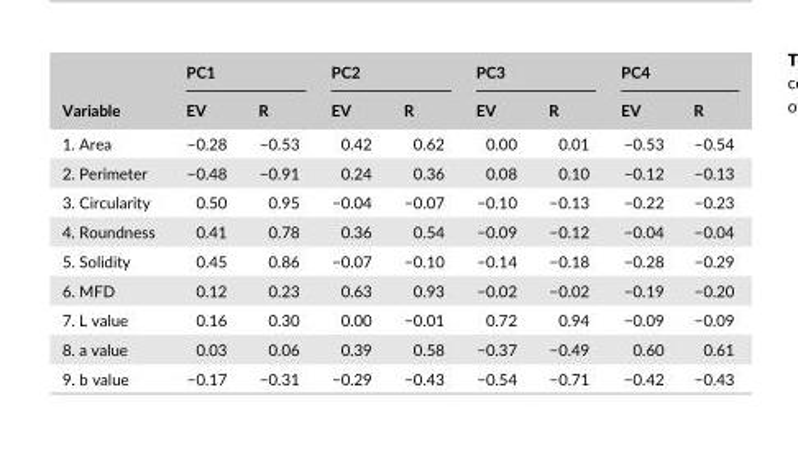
<table><thead><tr><td rowspan="2">Variable</td><td colspan="2">PC1</td><td colspan="2">PC2</td><td colspan="2">PC3</td><td colspan="2">PC4</td></tr><tr><td>EV</td><td>R</td><td>EV</td><td>R</td><td>EV</td><td>R</td><td>EV</td><td>R</td></tr></thead><tbody><tr><td>1. Area</td><td>−0.28</td><td>−0.53</td><td>0.42</td><td>0.62</td><td>0.00</td><td>0.01</td><td>−0.53</td><td>−0.54</td></tr><tr><td>2. Perimeter</td><td>−0.48</td><td>−0.91</td><td>0.24</td><td>0.36</td><td>0.08</td><td>0.10</td><td>−0.12</td><td>−0.13</td></tr><tr><td>3. Circularity</td><td>0.50</td><td>0.95</td><td>−0.04</td><td>−0.07</td><td>−0.10</td><td>−0.13</td><td>−0.22</td><td>−0.23</td></tr><tr><td>4. Roundness</td><td>0.41</td><td>0.78</td><td>0.36</td><td>0.54</td><td>−0.09</td><td>−0.12</td><td>−0.04</td><td>−0.04</td></tr><tr><td>5. Solidity</td><td>0.45</td><td>0.86</td><td>−0.07</td><td>−0.10</td><td>−0.14</td><td>−0.18</td><td>−0.28</td><td>−0.29</td></tr><tr><td>6. MFD</td><td>0.12</td><td>0.23</td><td>0.63</td><td>0.93</td><td>−0.02</td><td>−0.02</td><td>−0.19</td><td>−0.20</td></tr><tr><td>7. L value</td><td>0.16</td><td>0.30</td><td>0.00</td><td>−0.01</td><td>0.72</td><td>0.94</td><td>−0.09</td><td>−0.09</td></tr><tr><td>8. a value</td><td>0.03</td><td>0.06</td><td>0.39</td><td>0.58</td><td>−0.37</td><td>−0.49</td><td>0.60</td><td>0.61</td></tr><tr><td>9. b value</td><td>−0.17</td><td>−0.31</td><td>−0.29</td><td>−0.43</td><td>−0.54</td><td>−0.71</td><td>−0.42</td><td>−0.43</td></tr></tbody></table>